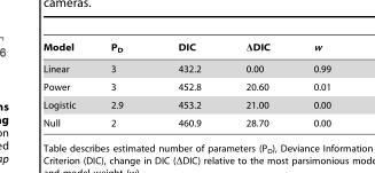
<table><thead><tr><td>Model</td><td>P<sub>D</sub></td><td>DIC</td><td>ΔDIC</td><td>w</td></tr></thead><tbody><tr><td>Linear</td><td>3</td><td>432.2</td><td>0.00</td><td>0.99</td></tr><tr><td>Power</td><td>3</td><td>452.8</td><td>20.60</td><td>0.01</td></tr><tr><td>Logistic</td><td>2.9</td><td>453.2</td><td>21.00</td><td>0.00</td></tr><tr><td>Null</td><td>2</td><td>460.9</td><td>28.70</td><td>0.00</td></tr></tbody></table>